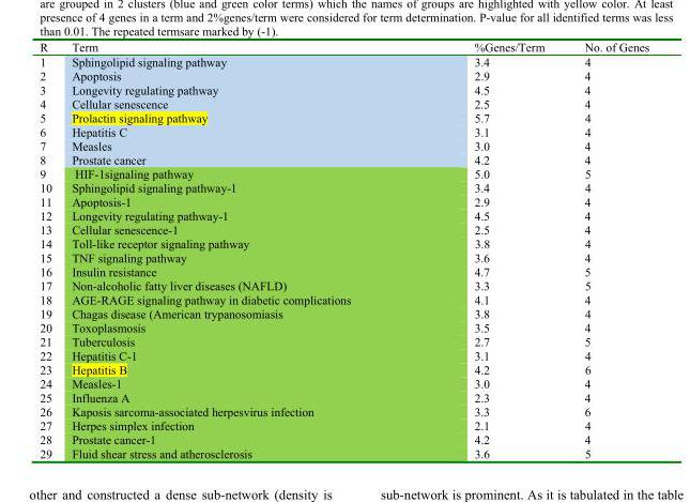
<table><thead><tr><td>R</td><td>Term</td><td>%Genes/Term</td><td>No. of Genes</td></tr></thead><tbody><tr><td>1</td><td>Sphingolipid signaling pathway</td><td>3.4</td><td>4</td></tr><tr><td>2</td><td>Apoptosis</td><td>2.9</td><td>4</td></tr><tr><td>3</td><td>Longevity regulating pathway</td><td>4.5</td><td>4</td></tr><tr><td>4</td><td>Cellular senescence</td><td>2.5</td><td>4</td></tr><tr><td>5</td><td>Prolactin signaling pathway</td><td>5.7</td><td>4</td></tr><tr><td>6</td><td>Hepatitis C</td><td>3.1</td><td>4</td></tr><tr><td>7</td><td>Measles</td><td>3.0</td><td>4</td></tr><tr><td>8</td><td>Prostate cancer</td><td>4.2</td><td>4</td></tr><tr><td>9</td><td>HIF-1signaling pathway</td><td>5.0</td><td>5</td></tr><tr><td>10</td><td>Sphingolipid signaling pathway-1</td><td>3.4</td><td>4</td></tr><tr><td>11</td><td>Apoptosis-1</td><td>2.9</td><td>4</td></tr><tr><td>12</td><td>Longevity regulating pathway-1</td><td>4.5</td><td>4</td></tr><tr><td>13</td><td>Cellular senescence-1</td><td>2.5</td><td>4</td></tr><tr><td>14</td><td>Toll-like receptor signaling pathway</td><td>3.8</td><td>4</td></tr><tr><td>15</td><td>TNF signaling pathway</td><td>3.6</td><td>4</td></tr><tr><td>16</td><td>Insulin resistance</td><td>4.7</td><td>5</td></tr><tr><td>17</td><td>Non-alcoholic fatty liver diseases (NAFLD)</td><td>3.3</td><td>5</td></tr><tr><td>18</td><td>AGE-RAGE signaling pathway in diabetic complications</td><td>4.1</td><td>4</td></tr><tr><td>19</td><td>Chagas disease (American trypanosomiasis</td><td>3.8</td><td>4</td></tr><tr><td>20</td><td>Toxoplasmosis</td><td>3.5</td><td>4</td></tr><tr><td>21</td><td>Tuberculosis</td><td>2.7</td><td>5</td></tr><tr><td>22</td><td>Hepatitis C-1</td><td>3.1</td><td>4</td></tr><tr><td>23</td><td>Hepatitis B</td><td>4.2</td><td>6</td></tr><tr><td>24</td><td>Measles-1</td><td>3.0</td><td>4</td></tr><tr><td>25</td><td>Influenza A</td><td>2.3</td><td>4</td></tr><tr><td>26</td><td>Kaposis sarcoma-associated herpesvirus infection</td><td>3.3</td><td>6</td></tr><tr><td>27</td><td>Herpes simplex infection</td><td>2.1</td><td>4</td></tr><tr><td>28</td><td>Prostate cancer-1</td><td>4.2</td><td>4</td></tr><tr><td>29</td><td>Fluid shear stress and atherosclerosis</td><td>3.6</td><td>5</td></tr></tbody></table>